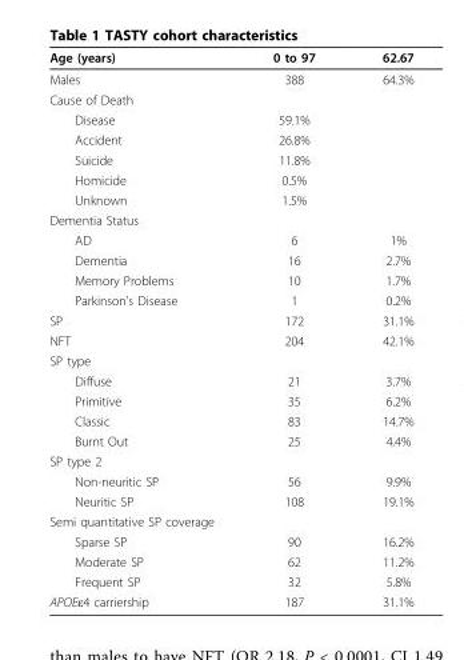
<table><thead><tr><td>Age (years)</td><td>0 to 97</td><td>62.67</td></tr></thead><tbody><tr><td>Males</td><td>388</td><td>64.3%</td></tr><tr><td colspan="3">Cause of Death</td></tr><tr><td>Disease</td><td>59.1%</td><td></td></tr><tr><td>Accident</td><td>26.8%</td><td></td></tr><tr><td>Suicide</td><td>11.8%</td><td></td></tr><tr><td>Homicide</td><td>0.5%</td><td></td></tr><tr><td>Unknown</td><td>1.5%</td><td></td></tr><tr><td colspan="3">Dementia Status</td></tr><tr><td>AD</td><td>6</td><td>1%</td></tr><tr><td>Dementia</td><td>16</td><td>2.7%</td></tr><tr><td>Memory Problems</td><td>10</td><td>1.7%</td></tr><tr><td>Parkinson’s Disease</td><td>1</td><td>0.2%</td></tr><tr><td>SP</td><td>172</td><td>31.1%</td></tr><tr><td>NFT</td><td>204</td><td>42.1%</td></tr><tr><td colspan="3">SP type</td></tr><tr><td>Diffuse</td><td>21</td><td>3.7%</td></tr><tr><td>Primitive</td><td>35</td><td>6.2%</td></tr><tr><td>Classic</td><td>83</td><td>14.7%</td></tr><tr><td>Burnt Out</td><td>25</td><td>4.4%</td></tr><tr><td colspan="3">SP type 2</td></tr><tr><td>Non-neuritic SP</td><td>56</td><td>9.9%</td></tr><tr><td>Neuritic SP</td><td>108</td><td>19.1%</td></tr><tr><td colspan="3">Semi quantitative SP coverage</td></tr><tr><td>Sparse SP</td><td>90</td><td>16.2%</td></tr><tr><td>Moderate SP</td><td>62</td><td>11.2%</td></tr><tr><td>Frequent SP</td><td>32</td><td>5.8%</td></tr><tr><td>APOEε4 carriership</td><td>187</td><td>31.1%</td></tr></tbody></table>